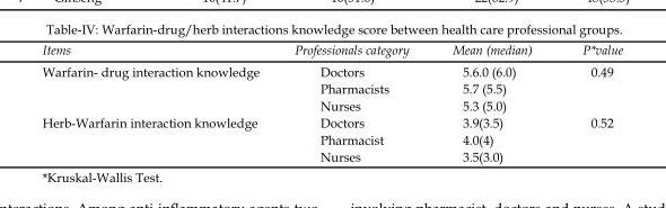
<table><thead><tr><td>Items</td><td>Professionals category</td><td>Mean (median)</td><td>P*value</td></tr></thead><tbody><tr><td rowspan="3">Warfarin- drug interaction knowledge</td><td>Doctors</td><td>5.6.0 (6.0)</td><td rowspan="3">0.49</td></tr><tr><td>Pharmacists</td><td>5.7 (5.5)</td></tr><tr><td>Nurses</td><td>5.3 (5.0)</td></tr><tr><td rowspan="3">Herb-Warfarin interaction knowledge</td><td>Doctors</td><td>3.9(3.5)</td><td rowspan="3">0.52</td></tr><tr><td>Pharmacist</td><td>4.0(4)</td></tr><tr><td>Nurses</td><td>3.5(3.0)</td></tr></tbody></table>